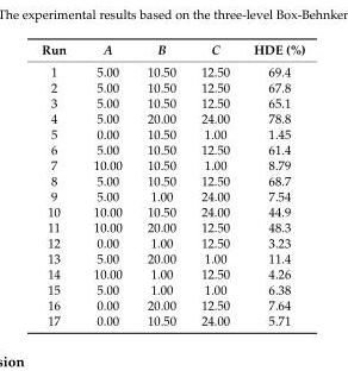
<table><thead><tr><td>Run</td><td>A</td><td>B</td><td>C</td><td>HDE (%)</td></tr></thead><tbody><tr><td>1</td><td>5.00</td><td>10.50</td><td>12.50</td><td>69.4</td></tr><tr><td>2</td><td>5.00</td><td>10.50</td><td>12.50</td><td>67.8</td></tr><tr><td>3</td><td>5.00</td><td>10.50</td><td>12.50</td><td>65.1</td></tr><tr><td>4</td><td>5.00</td><td>20.00</td><td>24.00</td><td>78.8</td></tr><tr><td>5</td><td>0.00</td><td>10.50</td><td>1.00</td><td>1.45</td></tr><tr><td>6</td><td>5.00</td><td>10.50</td><td>12.50</td><td>61.4</td></tr><tr><td>7</td><td>10.00</td><td>10.50</td><td>1.00</td><td>8.79</td></tr><tr><td>8</td><td>5.00</td><td>10.50</td><td>12.50</td><td>68.7</td></tr><tr><td>9</td><td>5.00</td><td>1.00</td><td>24.00</td><td>7.54</td></tr><tr><td>10</td><td>10.00</td><td>10.50</td><td>24.00</td><td>44.9</td></tr><tr><td>11</td><td>10.00</td><td>20.00</td><td>12.50</td><td>48.3</td></tr><tr><td>12</td><td>0.00</td><td>1.00</td><td>12.50</td><td>3.23</td></tr><tr><td>13</td><td>5.00</td><td>20.00</td><td>1.00</td><td>11.4</td></tr><tr><td>14</td><td>10.00</td><td>1.00</td><td>12.50</td><td>4.26</td></tr><tr><td>15</td><td>5.00</td><td>1.00</td><td>1.00</td><td>6.38</td></tr><tr><td>16</td><td>0.00</td><td>20.00</td><td>12.50</td><td>7.64</td></tr><tr><td>17</td><td>0.00</td><td>10.50</td><td>24.00</td><td>5.71</td></tr></tbody></table>